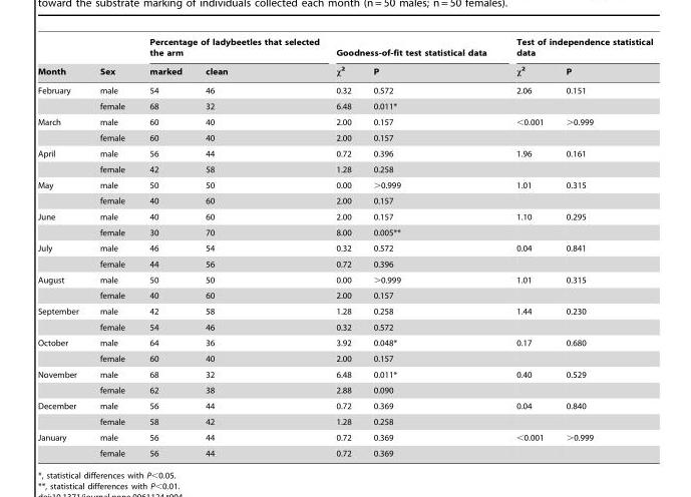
<table><thead><tr><td rowspan="2">Month</td><td rowspan="2">Sex</td><td colspan="2">Percentage of ladybeetles that selected the arm</td><td colspan="2">Goodness-of-fit test statistical data</td><td colspan="2">Test of independence statistical data</td></tr><tr><td>marked</td><td>clean</td><td>χ<sup>2</sup></td><td>P</td><td>χ<sup>2</sup></td><td>P</td></tr></thead><tbody><tr><td rowspan="2">February</td><td>male</td><td>54</td><td>46</td><td>0.32</td><td>0.572</td><td>2.06</td><td>0.151</td></tr><tr><td>female</td><td>68</td><td>32</td><td>6.48</td><td>0.011*</td><td></td><td></td></tr><tr><td rowspan="2">March</td><td>male</td><td>60</td><td>40</td><td>2.00</td><td>0.157</td><td>&lt;0.001</td><td>&gt;0.999</td></tr><tr><td>female</td><td>60</td><td>40</td><td>2.00</td><td>0.157</td><td></td><td></td></tr><tr><td rowspan="2">April</td><td>male</td><td>56</td><td>44</td><td>0.72</td><td>0.396</td><td>1.96</td><td>0.161</td></tr><tr><td>female</td><td>42</td><td>58</td><td>1.28</td><td>0.258</td><td></td><td></td></tr><tr><td rowspan="2">May</td><td>male</td><td>50</td><td>50</td><td>0.00</td><td>&gt;0.999</td><td>1.01</td><td>0.315</td></tr><tr><td>female</td><td>40</td><td>60</td><td>2.00</td><td>0.157</td><td></td><td></td></tr><tr><td rowspan="2">June</td><td>male</td><td>40</td><td>60</td><td>2.00</td><td>0.157</td><td>1.10</td><td>0.295</td></tr><tr><td>female</td><td>30</td><td>70</td><td>8.00</td><td>0.005**</td><td></td><td></td></tr><tr><td rowspan="2">July</td><td>male</td><td>46</td><td>54</td><td>0.32</td><td>0.572</td><td>0.04</td><td>0.841</td></tr><tr><td>female</td><td>44</td><td>56</td><td>0.72</td><td>0.396</td><td></td><td></td></tr><tr><td rowspan="2">August</td><td>male</td><td>50</td><td>50</td><td>0.00</td><td>&gt;0.999</td><td>1.01</td><td>0.315</td></tr><tr><td>female</td><td>40</td><td>60</td><td>2.00</td><td>0.157</td><td></td><td></td></tr><tr><td rowspan="2">September</td><td>male</td><td>42</td><td>58</td><td>1.28</td><td>0.258</td><td>1.44</td><td>0.230</td></tr><tr><td>female</td><td>54</td><td>46</td><td>0.32</td><td>0.572</td><td></td><td></td></tr><tr><td rowspan="2">October</td><td>male</td><td>64</td><td>36</td><td>3.92</td><td>0.048*</td><td>0.17</td><td>0.680</td></tr><tr><td>female</td><td>60</td><td>40</td><td>2.00</td><td>0.157</td><td></td><td></td></tr><tr><td rowspan="2">November</td><td>male</td><td>68</td><td>32</td><td>6.48</td><td>0.011*</td><td>0.40</td><td>0.529</td></tr><tr><td>female</td><td>62</td><td>38</td><td>2.88</td><td>0.090</td><td></td><td></td></tr><tr><td rowspan="2">December</td><td>male</td><td>56</td><td>44</td><td>0.72</td><td>0.369</td><td>0.04</td><td>0.840</td></tr><tr><td>female</td><td>58</td><td>42</td><td>1.28</td><td>0.258</td><td></td><td></td></tr><tr><td rowspan="2">January</td><td>male</td><td>56</td><td>44</td><td>0.72</td><td>0.369</td><td>&lt;0.001</td><td>&gt;0.999</td></tr><tr><td>female</td><td>56</td><td>44</td><td>0.72</td><td>0.369</td><td></td><td></td></tr></tbody></table>